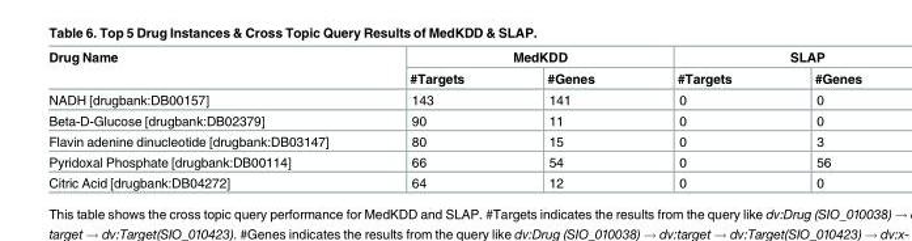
<table><thead><tr><td rowspan="2">Drug Name</td><td colspan="2">MedKDD</td><td colspan="2">SLAP</td></tr><tr><td>#Targets</td><td>#Genes</td><td>#Targets</td><td>#Genes</td></tr></thead><tbody><tr><td>NADH [drugbank:DB00157]</td><td>143</td><td>141</td><td>0</td><td>0</td></tr><tr><td>Beta-D-Glucose [drugbank:DB02379]</td><td>90</td><td>11</td><td>0</td><td>0</td></tr><tr><td>Flavin adenine dinucleotide [drugbank:DB03147]</td><td>80</td><td>15</td><td>0</td><td>3</td></tr><tr><td>Pyridoxal Phosphate [drugbank:DB00114]</td><td>66</td><td>54</td><td>0</td><td>56</td></tr><tr><td>Citric Acid [drugbank:DB04272]</td><td>64</td><td>12</td><td>0</td><td>0</td></tr></tbody></table>